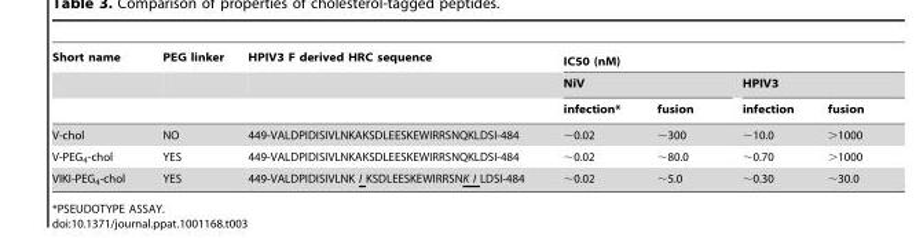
<table><thead><tr><td rowspan="3">Short name</td><td rowspan="3">PEG linker</td><td rowspan="3">HPIV3 F derived HRC sequence</td><td colspan="4">IC50 (nM)</td></tr><tr><td colspan="2">NiV</td><td colspan="2">HPIV3</td></tr><tr><td>infection*</td><td>fusion</td><td>infection</td><td>fusion</td></tr></thead><tbody><tr><td>V-chol</td><td>NO</td><td>449-VALDPIDISIVLNKAKSDLEESKEWIRRSNQKLDSI-484</td><td>∼0.02</td><td>∼300</td><td>∼10.0</td><td>&gt;1000</td></tr><tr><td>V-PEG<sub>4</sub>-chol</td><td>YES</td><td>449-VALDPIDISIVLNKAKSDLEESKEWIRRSNQKLDSI-484</td><td>∼0.02</td><td>∼80.0</td><td>∼0.70</td><td>&gt;1000</td></tr><tr><td>VIKI-PEG<sub>4</sub>-chol</td><td>YES</td><td>449-VALDPIDISIVLNK I KSDLEESKEWIRRSNK I LDSI-484</td><td>∼0.02</td><td>∼5.0</td><td>∼0.30</td><td>∼30.0</td></tr></tbody></table>